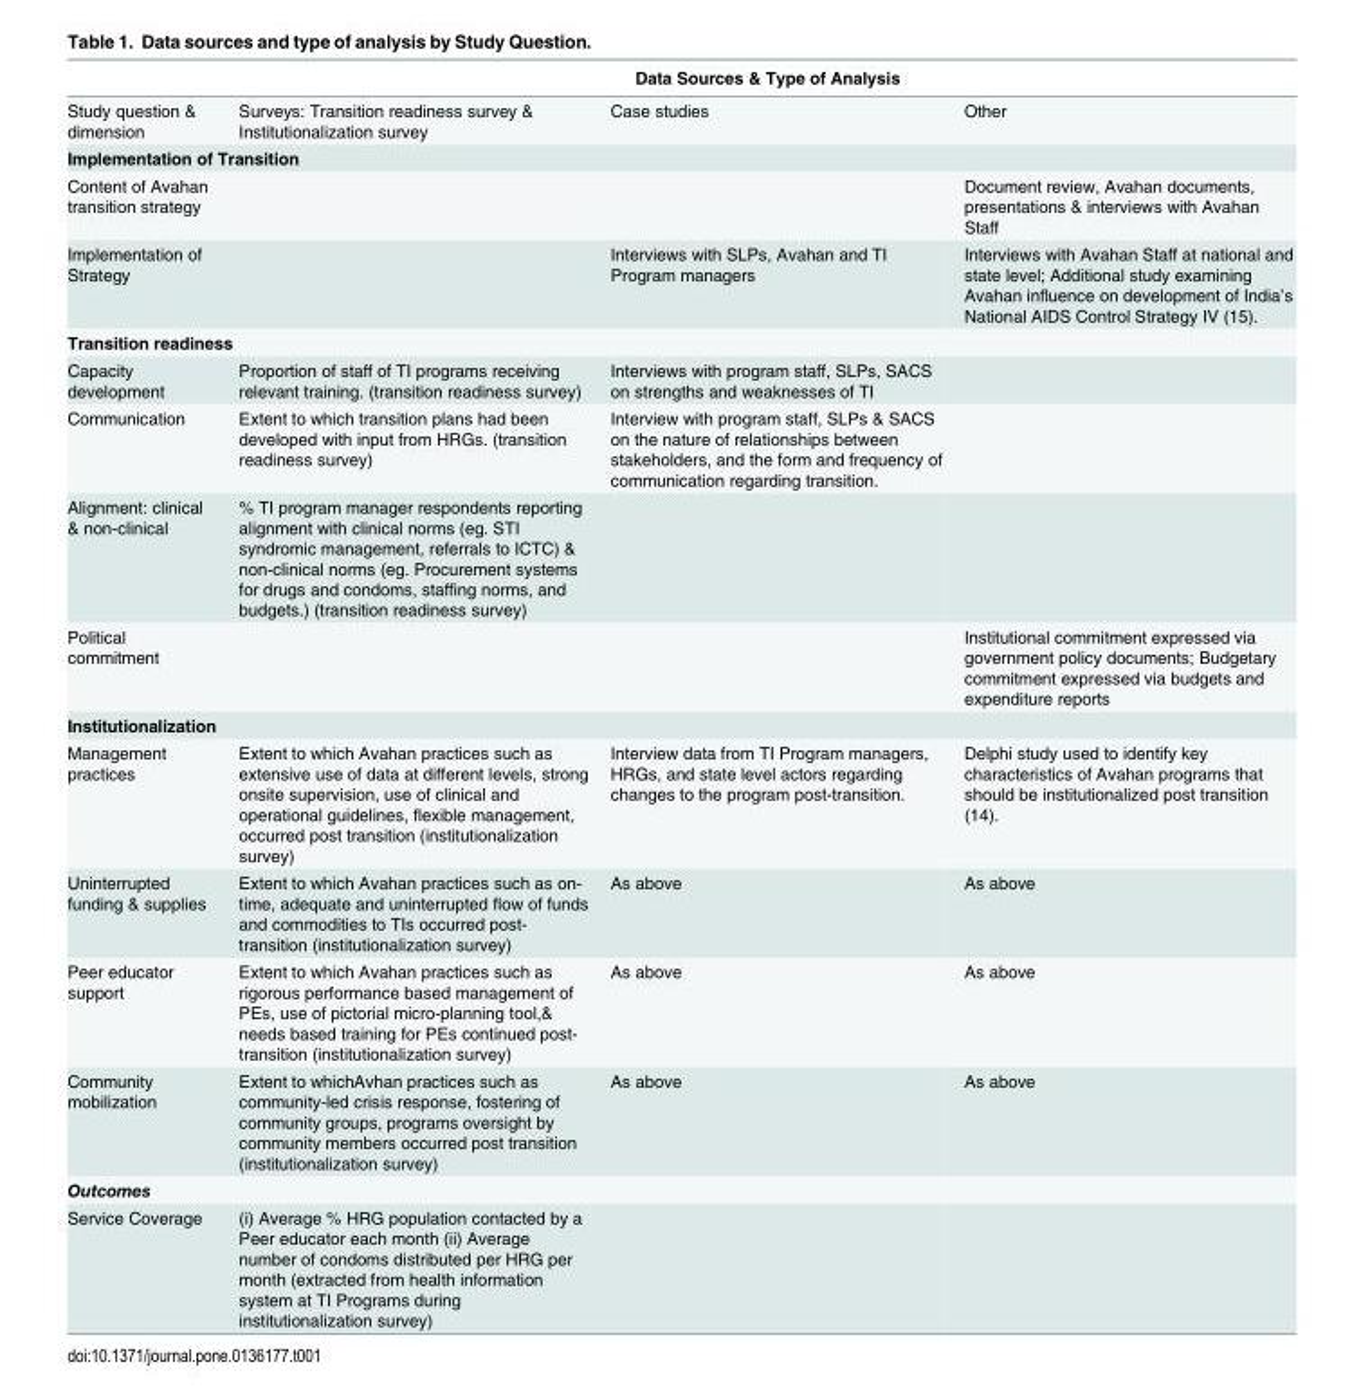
<table><thead><tr><td rowspan="2">Study question &amp; dimension</td><td colspan="3">Data Sources &amp; Type of Analysis</td></tr><tr><td>Surveys: Transition readiness survey &amp; Institutionalization survey</td><td>Case studies</td><td>Other</td></tr></thead><tbody><tr><td colspan="4">Implementation of Transition</td></tr><tr><td>Content of Avahan transition strategy</td><td></td><td></td><td>Document review, Avahan documents, presentations &amp; interviews with Avahan Staff</td></tr><tr><td>Implementation of Strategy</td><td></td><td>Interviews with SLPs, Avahan and TI Program managers</td><td>Interviews with Avahan Staff at national and state level; Additional study examining Avahan influence on development of India’s National AIDS Control Strategy IV (15).</td></tr><tr><td colspan="4">Transition readiness</td></tr><tr><td>Capacity development</td><td>Proportion of staff of TI programs receiving relevant training. (transition readiness survey)</td><td>Interviews with program staff, SLPs, SACS on strengths and weaknesses of TI</td><td></td></tr><tr><td>Communication</td><td>Extent to which transition plans had been developed with input from HRGs. (transition readiness survey)</td><td>Interview with program staff, SLPs &amp; SACS on the nature of relationships between stakeholders, and the form and frequency of communication regarding transition.</td><td></td></tr><tr><td>Alignment: clinical &amp; non-clinical</td><td>% TI program manager respondents reporting alignment with clinical norms (eg. STI syndromic management, referrals to ICTC) &amp; non-clinical norms (eg. Procurement systems for drugs and condoms, staffing norms, and budgets.) (transition readiness survey)</td><td></td><td></td></tr><tr><td>Political commitment</td><td></td><td></td><td>Institutional commitment expressed via government policy documents; Budgetary commitment expressed via budgets and expenditure reports</td></tr><tr><td colspan="4">Institutionalization</td></tr><tr><td>Management practices</td><td>Extent to which Avahan practices such as extensive use of data at different levels, strong onsite supervision, use of clinical and operational guidelines, flexible management, occurred post transition (institutionalization survey)</td><td>Interview data from TI Program managers, HRGs, and state level actors regarding changes to the program post-transition.</td><td>Delphi study used to identify key characteristics of Avahan programs that should be institutionalized post transition (14).</td></tr><tr><td>Uninterrupted funding &amp; supplies</td><td>Extent to which Avahan practices such as on- time, adequate and uninterrupted flow of funds and commodities to TIs occurred post- transition (institutionalization survey)</td><td>As above</td><td>As above</td></tr><tr><td>Peer educator support</td><td>Extent to which Avahan practices such as rigorous performance based management of PEs, use of pictorial micro-planning tool,&amp; needs based training for PEs continued post- transition (institutionalization survey)</td><td>As above</td><td>As above</td></tr><tr><td>Community mobilization</td><td>Extent to whichAvhan practices such as community-led crisis response, fostering of community groups, programs oversight by community members occurred post transition (institutionalization survey)</td><td>As above</td><td>As above</td></tr><tr><td colspan="4">Outcomes</td></tr><tr><td>Service Coverage</td><td>(i) Average % HRG population contacted by a Peer educator each month (ii) Average number of condoms distributed per HRG per month (extracted from health information system at TI Programs during institutionalization survey)</td><td></td><td></td></tr></tbody></table>